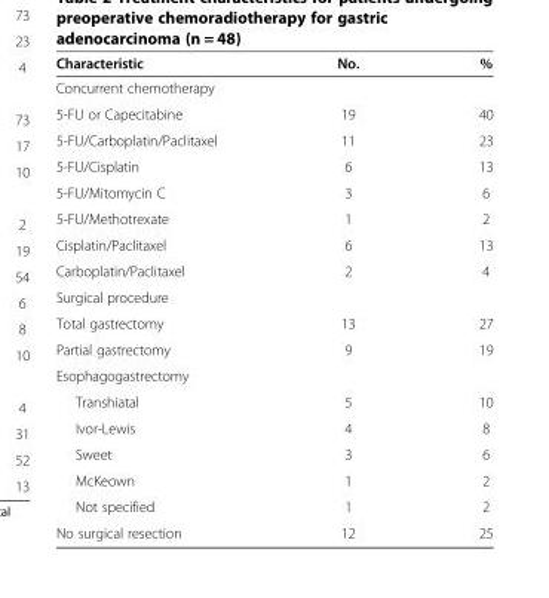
<table><thead><tr><td>Characteristic</td><td>No.</td><td>%</td></tr></thead><tbody><tr><td colspan="3">Concurrent chemotherapy</td></tr><tr><td>5-FU or Capecitabine</td><td>19</td><td>40</td></tr><tr><td>5-FU/Carboplatin/Paclitaxel</td><td>11</td><td>23</td></tr><tr><td>5-FU/Cisplatin</td><td>6</td><td>13</td></tr><tr><td>5-FU/Mitomycin C</td><td>3</td><td>6</td></tr><tr><td>5-FU/Methotrexate</td><td>1</td><td>2</td></tr><tr><td>Cisplatin/Paclitaxel</td><td>6</td><td>13</td></tr><tr><td>Carboplatin/Paclitaxel</td><td>2</td><td>4</td></tr><tr><td colspan="3">Surgical procedure</td></tr><tr><td>Total gastrectomy</td><td>13</td><td>27</td></tr><tr><td>Partial gastrectomy</td><td>9</td><td>19</td></tr><tr><td colspan="3">Esophagogastrectomy</td></tr><tr><td>Transhiatal</td><td>5</td><td>10</td></tr><tr><td>Ivor-Lewis</td><td>4</td><td>8</td></tr><tr><td>Sweet</td><td>3</td><td>6</td></tr><tr><td>McKeown</td><td>1</td><td>2</td></tr><tr><td>Not specified</td><td>1</td><td>2</td></tr><tr><td>No surgical resection</td><td>12</td><td>25</td></tr></tbody></table>